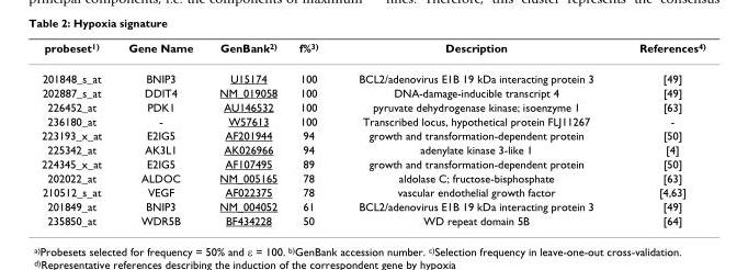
<table><thead><tr><td>probeset<sup>1)</sup></td><td>Gene Name</td><td>GenBank<sup>2)</sup></td><td>f%<sup>3)</sup></td><td>Description</td><td>References<sup>4)</sup></td></tr></thead><tbody><tr><td>201848_s_at</td><td>BNIP3</td><td>U15174</td><td>100</td><td>BCL2/adenovirus E1B 19 kDa interacting protein 3</td><td>[49]</td></tr><tr><td>202887_s_at</td><td>DDIT4</td><td>NM_019058</td><td>100</td><td>DNA-damage-inducible transcript 4</td><td>[49]</td></tr><tr><td>226452_at</td><td>PDK1</td><td>AU146532</td><td>100</td><td>pyruvate dehydrogenase kinase; isoenzyme 1</td><td>[63]</td></tr><tr><td>236180_at</td><td>-</td><td>W57613</td><td>100</td><td>Transcribed locus, hypothetical protein FLJ11267</td><td>-</td></tr><tr><td>223193_x_at</td><td>E2IG5</td><td>AF201944</td><td>94</td><td>growth and transformation-dependent protein</td><td>[50]</td></tr><tr><td>225342_at</td><td>AK3L1</td><td>AK026966</td><td>94</td><td>adenylate kinase 3-like 1</td><td>[4]</td></tr><tr><td>224345_x_at</td><td>E2IG5</td><td>AF107495</td><td>89</td><td>growth and transformation-dependent protein</td><td>[50]</td></tr><tr><td>202022_at</td><td>ALDOC</td><td>NM_005165</td><td>78</td><td>aldolase C; fructose-bisphosphate</td><td>[63]</td></tr><tr><td>210512_s_at</td><td>VEGF</td><td>AF022375</td><td>78</td><td>vascular endothelial growth factor</td><td>[4,63]</td></tr><tr><td>201849_at</td><td>BNIP3</td><td>NM_004052</td><td>61</td><td>BCL2/adenovirus E1B 19 kDa interacting protein 3</td><td>[49]</td></tr><tr><td>235850_at</td><td>WDR5B</td><td>BF434228</td><td>50</td><td>WD repeat domain 5B</td><td>[64]</td></tr></tbody></table>